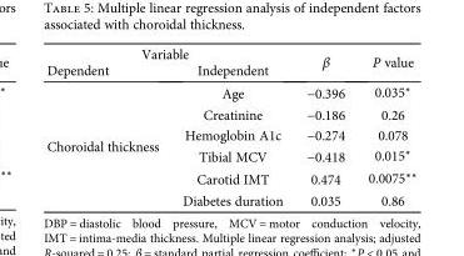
<table><thead><tr><td colspan="2">Variable</td><td rowspan="2">β</td><td rowspan="2">P value</td></tr><tr><td>Dependent</td><td>Independent</td></tr></thead><tbody><tr><td rowspan="6">Choroidal thickness</td><td>Age</td><td>−0.396</td><td>0.035∗</td></tr><tr><td>Creatinine</td><td>−0.186</td><td>0.26</td></tr><tr><td>Hemoglobin A1c</td><td>−0.274</td><td>0.078</td></tr><tr><td>Tibial MCV</td><td>−0.418</td><td>0.015∗</td></tr><tr><td>Carotid IMT</td><td>0.474</td><td>0.0075∗∗</td></tr><tr><td>Diabetes duration</td><td>0.035</td><td>0.86</td></tr></tbody></table>